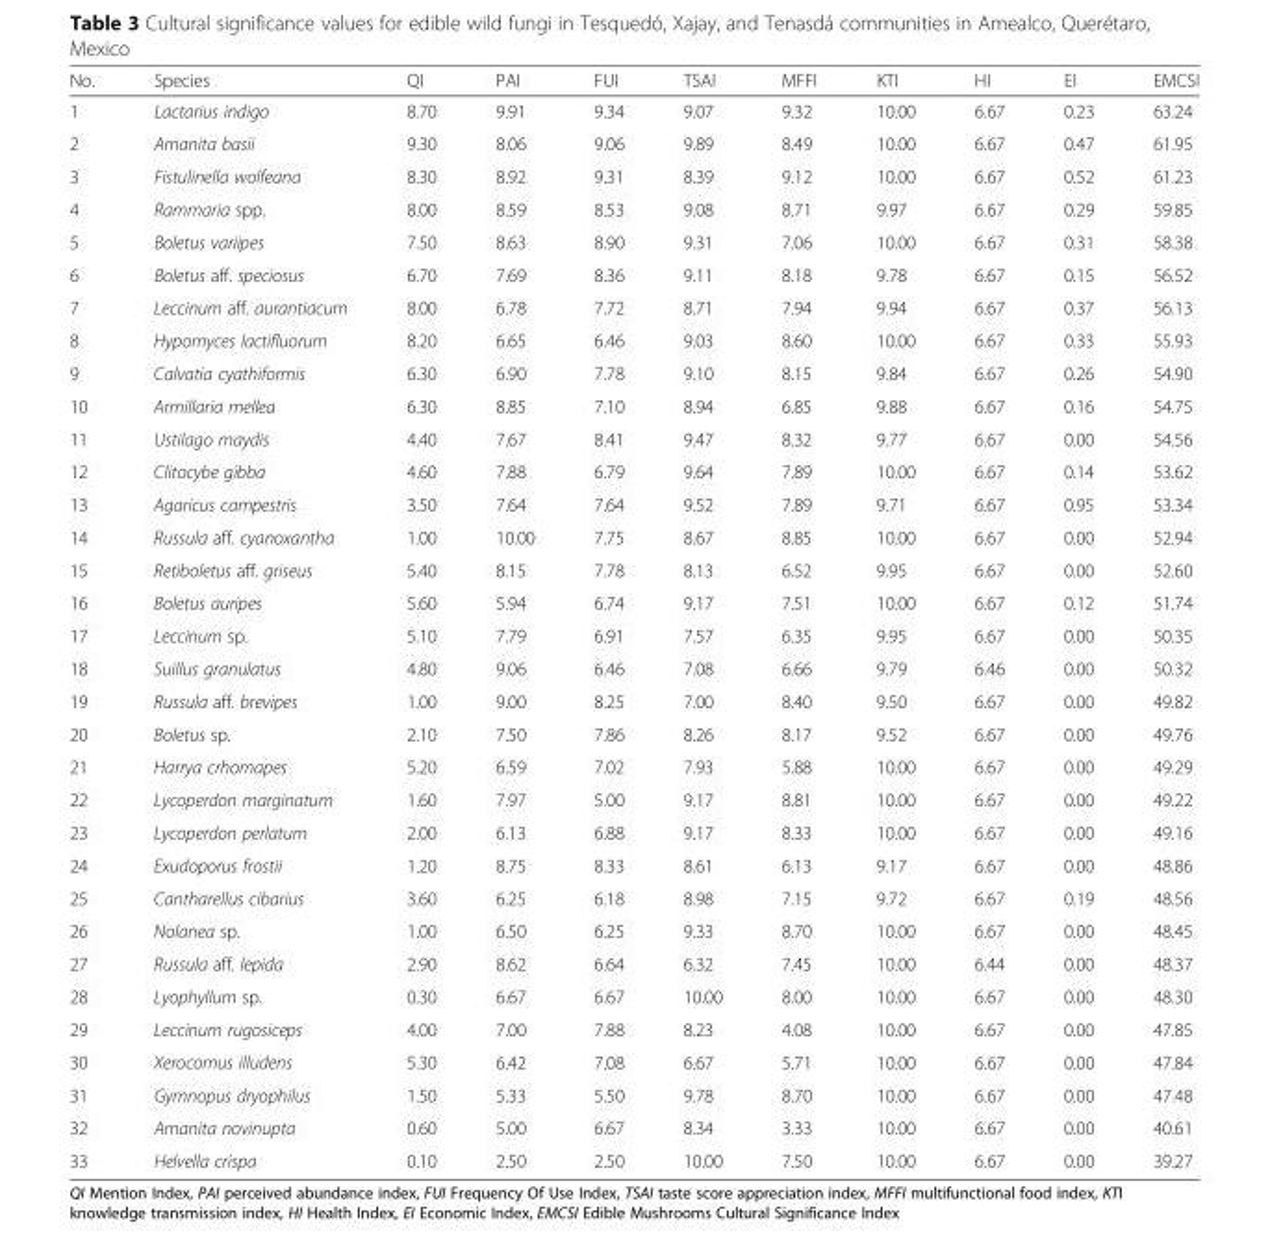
<table><thead><tr><td>No.</td><td>Species</td><td>QI</td><td>PAI</td><td>FUI</td><td>TSAI</td><td>MFFI</td><td>KTI</td><td>HI</td><td>EI</td><td>EMCSI</td></tr></thead><tbody><tr><td>1</td><td>Lactarius indigo</td><td>8.70</td><td>9.91</td><td>9.34</td><td>9.07</td><td>9.32</td><td>10.00</td><td>6.67</td><td>0.23</td><td>63.24</td></tr><tr><td>2</td><td>Amanita basii</td><td>9.30</td><td>8.06</td><td>9.06</td><td>9.89</td><td>8.49</td><td>10.00</td><td>6.67</td><td>0.47</td><td>61.95</td></tr><tr><td>3</td><td>Fistulinella wolfeana</td><td>8.30</td><td>8.92</td><td>9.31</td><td>8.39</td><td>9.12</td><td>10.00</td><td>6.67</td><td>0.52</td><td>61.23</td></tr><tr><td>4</td><td>Rammaria spp.</td><td>8.00</td><td>8.59</td><td>8.53</td><td>9.08</td><td>8.71</td><td>9.97</td><td>6.67</td><td>0.29</td><td>59.85</td></tr><tr><td>5</td><td>Boletus variipes</td><td>7.50</td><td>8.63</td><td>8.90</td><td>9.31</td><td>7.06</td><td>10.00</td><td>6.67</td><td>0.31</td><td>58.38</td></tr><tr><td>6</td><td>Boletus aff. speciosus</td><td>6.70</td><td>7.69</td><td>8.36</td><td>9.11</td><td>8.18</td><td>9.78</td><td>6.67</td><td>0.15</td><td>56.52</td></tr><tr><td>7</td><td>Leccinum aff. aurantiacum</td><td>8.00</td><td>6.78</td><td>7.72</td><td>8.71</td><td>7.94</td><td>9.94</td><td>6.67</td><td>0.37</td><td>56.13</td></tr><tr><td>8</td><td>Hypomyces lactifluorum</td><td>8.20</td><td>6.65</td><td>6.46</td><td>9.03</td><td>8.60</td><td>10.00</td><td>6.67</td><td>0.33</td><td>55.93</td></tr><tr><td>9</td><td>Calvatia cyathiformis</td><td>6.30</td><td>6.90</td><td>7.78</td><td>9.10</td><td>8.15</td><td>9.84</td><td>6.67</td><td>0.26</td><td>54.90</td></tr><tr><td>10</td><td>Armillaria mellea</td><td>6.30</td><td>8.85</td><td>7.10</td><td>8.94</td><td>6.85</td><td>9.88</td><td>6.67</td><td>0.16</td><td>54.75</td></tr><tr><td>11</td><td>Ustilago maydis</td><td>4.40</td><td>7.67</td><td>8.41</td><td>9.47</td><td>8.32</td><td>9.77</td><td>6.67</td><td>0.00</td><td>54.56</td></tr><tr><td>12</td><td>Clitocybe gibba</td><td>4.60</td><td>7.88</td><td>6.79</td><td>9.64</td><td>7.89</td><td>10.00</td><td>6.67</td><td>0.14</td><td>53.62</td></tr><tr><td>13</td><td>Agaricus campestris</td><td>3.50</td><td>7.64</td><td>7.64</td><td>9.52</td><td>7.89</td><td>9.71</td><td>6.67</td><td>0.95</td><td>53.34</td></tr><tr><td>14</td><td>Russula aff. cyanoxantha</td><td>1.00</td><td>10.00</td><td>7.75</td><td>8.67</td><td>8.85</td><td>10.00</td><td>6.67</td><td>0.00</td><td>52.94</td></tr><tr><td>15</td><td>Retiboletus aff. griseus</td><td>5.40</td><td>8.15</td><td>7.78</td><td>8.13</td><td>6.52</td><td>9.95</td><td>6.67</td><td>0.00</td><td>52.60</td></tr><tr><td>16</td><td>Boletus auripes</td><td>5.60</td><td>5.94</td><td>6.74</td><td>9.17</td><td>7.51</td><td>10.00</td><td>6.67</td><td>0.12</td><td>51.74</td></tr><tr><td>17</td><td>Leccinum sp.</td><td>5.10</td><td>7.79</td><td>6.91</td><td>7.57</td><td>6.35</td><td>9.95</td><td>6.67</td><td>0.00</td><td>50.35</td></tr><tr><td>18</td><td>Suillus granulatus</td><td>4.80</td><td>9.06</td><td>6.46</td><td>7.08</td><td>6.66</td><td>9.79</td><td>6.46</td><td>0.00</td><td>50.32</td></tr><tr><td>19</td><td>Russula aff. brevipes</td><td>1.00</td><td>9.00</td><td>8.25</td><td>7.00</td><td>8.40</td><td>9.50</td><td>6.67</td><td>0.00</td><td>49.82</td></tr><tr><td>20</td><td>Boletus sp.</td><td>2.10</td><td>7.50</td><td>7.86</td><td>8.26</td><td>8.17</td><td>9.52</td><td>6.67</td><td>0.00</td><td>49.76</td></tr><tr><td>21</td><td>Harrya crhomapes</td><td>5.20</td><td>6.59</td><td>7.02</td><td>7.93</td><td>5.88</td><td>10.00</td><td>6.67</td><td>0.00</td><td>49.29</td></tr><tr><td>22</td><td>Lycoperdon marginatum</td><td>1.60</td><td>7.97</td><td>5.00</td><td>9.17</td><td>8.81</td><td>10.00</td><td>6.67</td><td>0.00</td><td>49.22</td></tr><tr><td>23</td><td>Lycoperdon perlatum</td><td>2.00</td><td>6.13</td><td>6.88</td><td>9.17</td><td>8.33</td><td>10.00</td><td>6.67</td><td>0.00</td><td>49.16</td></tr><tr><td>24</td><td>Exudoporus frostii</td><td>1.20</td><td>8.75</td><td>8.33</td><td>8.61</td><td>6.13</td><td>9.17</td><td>6.67</td><td>0.00</td><td>48.86</td></tr><tr><td>25</td><td>Cantharellus cibarius</td><td>3.60</td><td>6.25</td><td>6.18</td><td>8.98</td><td>7.15</td><td>9.72</td><td>6.67</td><td>0.19</td><td>48.56</td></tr><tr><td>26</td><td>Nolanea sp.</td><td>1.00</td><td>6.50</td><td>6.25</td><td>9.33</td><td>8.70</td><td>10.00</td><td>6.67</td><td>0.00</td><td>48.45</td></tr><tr><td>27</td><td>Russula aff. lepida</td><td>2.90</td><td>8.62</td><td>6.64</td><td>6.32</td><td>7.45</td><td>10.00</td><td>6.44</td><td>0.00</td><td>48.37</td></tr><tr><td>28</td><td>Lyophyllum sp.</td><td>0.30</td><td>6.67</td><td>6.67</td><td>10.00</td><td>8.00</td><td>10.00</td><td>6.67</td><td>0.00</td><td>48.30</td></tr><tr><td>29</td><td>Leccinum rugosiceps</td><td>4.00</td><td>7.00</td><td>7.88</td><td>8.23</td><td>4.08</td><td>10.00</td><td>6.67</td><td>0.00</td><td>47.85</td></tr><tr><td>30</td><td>Xerocomus illudens</td><td>5.30</td><td>6.42</td><td>7.08</td><td>6.67</td><td>5.71</td><td>10.00</td><td>6.67</td><td>0.00</td><td>47.84</td></tr><tr><td>31</td><td>Gymnopus dryophilus</td><td>1.50</td><td>5.33</td><td>5.50</td><td>9.78</td><td>8.70</td><td>10.00</td><td>6.67</td><td>0.00</td><td>47.48</td></tr><tr><td>32</td><td>Amanita novinupta</td><td>0.60</td><td>5.00</td><td>6.67</td><td>8.34</td><td>3.33</td><td>10.00</td><td>6.67</td><td>0.00</td><td>40.61</td></tr><tr><td>33</td><td>Helvella crispa</td><td>0.10</td><td>2.50</td><td>2.50</td><td>10.00</td><td>7.50</td><td>10.00</td><td>6.67</td><td>0.00</td><td>39.27</td></tr></tbody></table>